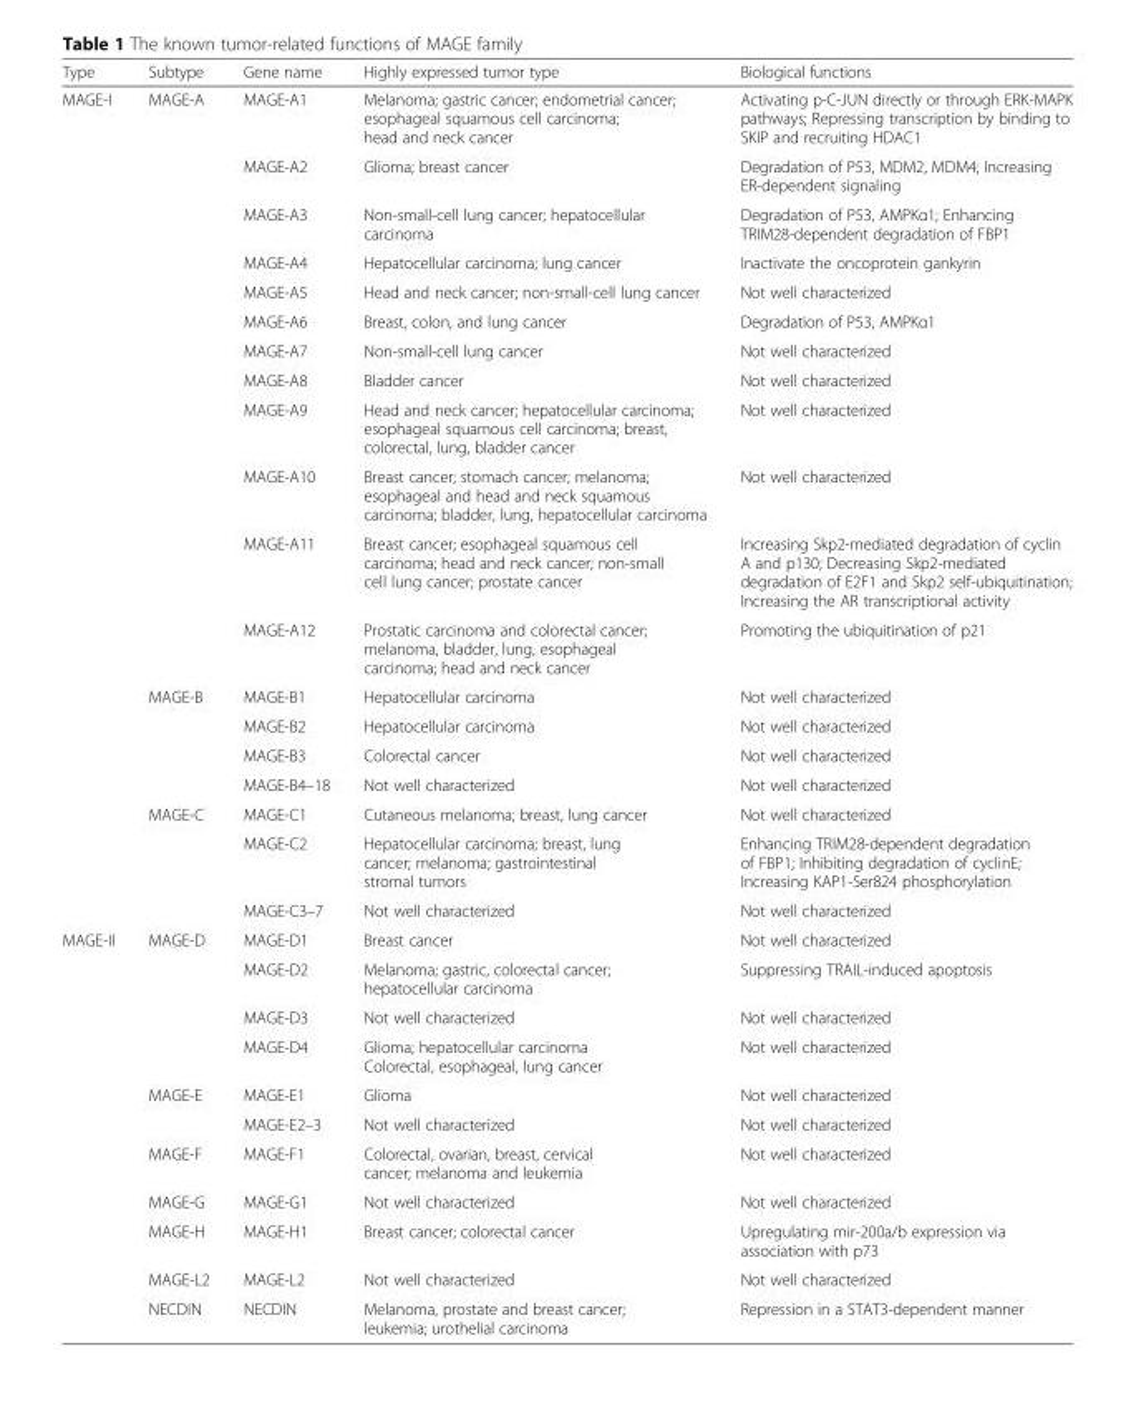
<table><thead><tr><td>Type</td><td>Subtype</td><td>Gene name</td><td>Highly expressed tumor type</td><td>Biological functions</td></tr></thead><tbody><tr><td rowspan="19">MAGE-I</td><td rowspan="12">MAGE-A</td><td>MAGE-A1</td><td>Melanoma; gastric cancer; endometrial cancer; esophageal squamous cell carcinoma; head and neck cancer</td><td>Activating p-C-JUN directly or through ERK-MAPK pathways; Repressing transcription by binding to SKIP and recruiting HDAC1</td></tr><tr><td>MAGE-A2</td><td>Glioma; breast cancer</td><td>Degradation of P53, MDM2, MDM4; Increasing ER-dependent signaling</td></tr><tr><td>MAGE-A3</td><td>Non-small-cell lung cancer; hepatocellular carcinoma</td><td>Degradation of P53, AMPKα1; Enhancing TRIM28-dependent degradation of FBP1</td></tr><tr><td>MAGE-A4</td><td>Hepatocellular carcinoma; lung cancer</td><td>Inactivate the oncoprotein gankyrin</td></tr><tr><td>MAGE-A5</td><td>Head and neck cancer; non-small-cell lung cancer</td><td>Not well characterized</td></tr><tr><td>MAGE-A6</td><td>Breast, colon, and lung cancer</td><td>Degradation of P53, AMPKα1</td></tr><tr><td>MAGE-A7</td><td>Non-small-cell lung cancer</td><td>Not well characterized</td></tr><tr><td>MAGE-A8</td><td>Bladder cancer</td><td>Not well characterized</td></tr><tr><td>MAGE-A9</td><td>Head and neck cancer; hepatocellular carcinoma; esophageal squamous cell carcinoma; breast, colorectal, lung, bladder cancer</td><td>Not well characterized</td></tr><tr><td>MAGE-A10</td><td>Breast cancer; stomach cancer; melanoma; esophageal and head and neck squamous carcinoma; bladder, lung, hepatocellular carcinoma</td><td>Not well characterized</td></tr><tr><td>MAGE-A11</td><td>Breast cancer; esophageal squamous cell carcinoma; head and neck cancer; non-small cell lung cancer; prostate cancer</td><td>Increasing Skp2-mediated degradation of cyclin A and p130; Decreasing Skp2-mediated degradation of E2F1 and Skp2 self-ubiquitination; Increasing the AR transcriptional activity</td></tr><tr><td>MAGE-A12</td><td>Prostatic carcinoma and colorectal cancer; melanoma, bladder, lung, esophageal carcinoma; head and neck cancer</td><td>Promoting the ubiquitination of p21</td></tr><tr><td rowspan="4">MAGE-B</td><td>MAGE-B1</td><td>Hepatocellular carcinoma</td><td>Not well characterized</td></tr><tr><td>MAGE-B2</td><td>Hepatocellular carcinoma</td><td>Not well characterized</td></tr><tr><td>MAGE-B3</td><td>Colorectal cancer</td><td>Not well characterized</td></tr><tr><td>MAGE-B4–18</td><td>Not well characterized</td><td>Not well characterized</td></tr><tr><td rowspan="3">MAGE-C</td><td>MAGE-C1</td><td>Cutaneous melanoma; breast, lung cancer</td><td>Not well characterized</td></tr><tr><td>MAGE-C2</td><td>Hepatocellular carcinoma; breast, lung cancer; melanoma; gastrointestinal stromal tumors</td><td>Enhancing TRIM28-dependent degradation of FBP1; Inhibiting degradation of cyclinE; Increasing KAP1-Ser824 phosphorylation</td></tr><tr><td>MAGE-C3–7</td><td>Not well characterized</td><td>Not well characterized</td></tr><tr><td rowspan="11">MAGE-II</td><td rowspan="4">MAGE-D</td><td>MAGE-D1</td><td>Breast cancer</td><td>Not well characterized</td></tr><tr><td>MAGE-D2</td><td>Melanoma; gastric, colorectal cancer; hepatocellular carcinoma</td><td>Suppressing TRAIL-induced apoptosis</td></tr><tr><td>MAGE-D3</td><td>Not well characterized</td><td>Not well characterized</td></tr><tr><td>MAGE-D4</td><td>Glioma; hepatocellular carcinoma Colorectal, esophageal, lung cancer</td><td>Not well characterized</td></tr><tr><td rowspan="2">MAGE-E</td><td>MAGE-E1</td><td>Glioma</td><td>Not well characterized</td></tr><tr><td>MAGE-E2–3</td><td>Not well characterized</td><td>Not well characterized</td></tr><tr><td>MAGE-F</td><td>MAGE-F1</td><td>Colorectal, ovarian, breast, cervical cancer; melanoma and leukemia</td><td>Not well characterized</td></tr><tr><td>MAGE-G</td><td>MAGE-G1</td><td>Not well characterized</td><td>Not well characterized</td></tr><tr><td>MAGE-H</td><td>MAGE-H1</td><td>Breast cancer; colorectal cancer</td><td>Upregulating mir-200a/b expression via association with p73</td></tr><tr><td>MAGE-L2</td><td>MAGE-L2</td><td>Not well characterized</td><td>Not well characterized</td></tr><tr><td>NECDIN</td><td>NECDIN</td><td>Melanoma, prostate and breast cancer; leukemia; urothelial carcinoma</td><td>Repression in a STAT3-dependent manner</td></tr></tbody></table>